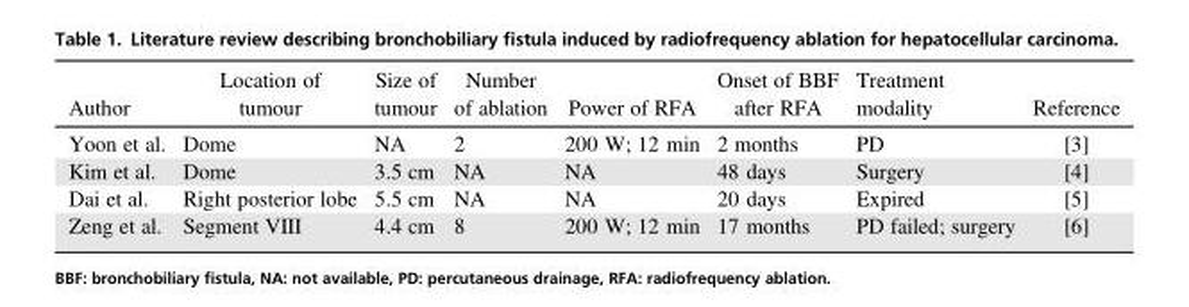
<table><thead><tr><td>Author</td><td>Location of tumour</td><td>Size of tumour</td><td>Number of ablation</td><td>Power of RFA</td><td>Onset of BBF after RFA</td><td>Treatment modality</td><td>Reference</td></tr></thead><tbody><tr><td>Yoon et al.</td><td>Dome</td><td>NA</td><td>2</td><td>200 W; 12 min</td><td>2 months</td><td>PD</td><td>[3]</td></tr><tr><td>Kim et al.</td><td>Dome</td><td>3.5 cm</td><td>NA</td><td>NA</td><td>48 days</td><td>Surgery</td><td>[4]</td></tr><tr><td>Dai et al.</td><td>Right posterior lobe</td><td>5.5 cm</td><td>NA</td><td>NA</td><td>20 days</td><td>Expired</td><td>[5]</td></tr><tr><td>Zeng et al.</td><td>Segment VIII</td><td>4.4 cm</td><td>8</td><td>200 W; 12 min</td><td>17 months</td><td>PD failed; surgery</td><td>[6]</td></tr></tbody></table>